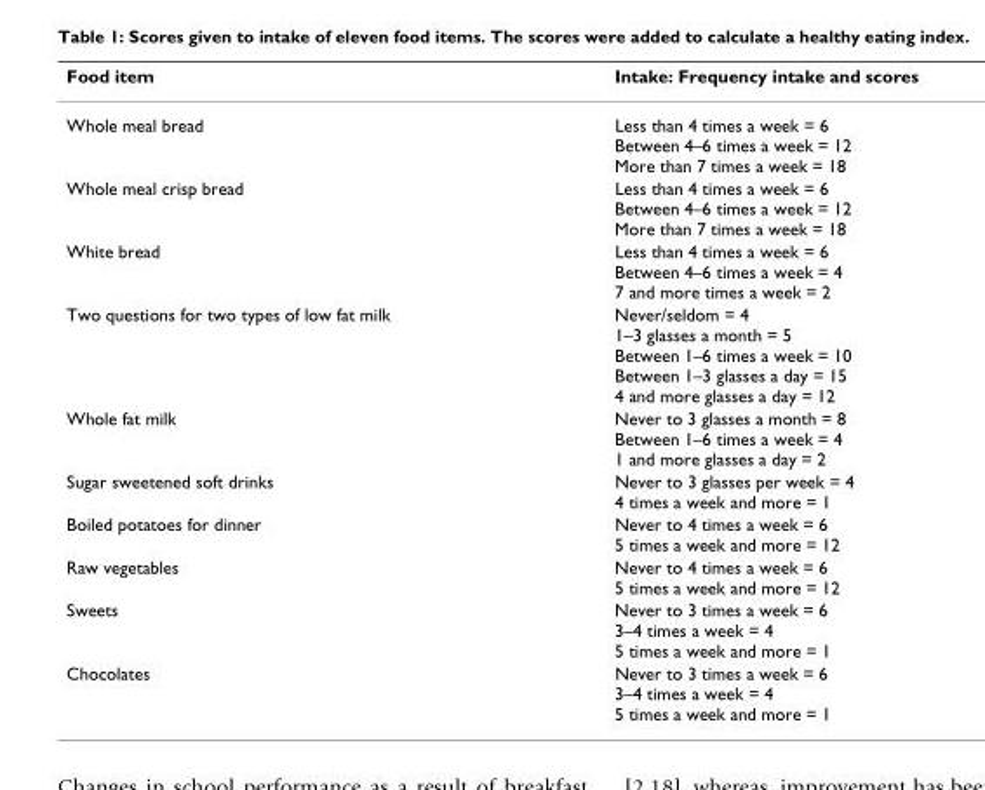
<table><thead><tr><td>Food item</td><td>Intake: Frequency intake and scores</td></tr></thead><tbody><tr><td>Whole meal bread</td><td>Less than 4 times a week = 6 Between 4–6 times a week = 12 More than 7 times a week = 18</td></tr><tr><td>Whole meal crisp bread</td><td>Less than 4 times a week = 6 Between 4–6 times a week = 12 More than 7 times a week = 18</td></tr><tr><td>White bread</td><td>Less than 4 times a week = 6 Between 4–6 times a week = 4 7 and more times a week = 2</td></tr><tr><td>Two questions for two types of low fat milk</td><td>Never/seldom = 4 1–3 glasses a month = 5 Between 1–6 times a week = 10 Between 1–3 glasses a day = 15 4 and more glasses a day = 12</td></tr><tr><td>Whole fat milk</td><td>Never to 3 glasses a month = 8 Between 1–6 times a week = 4 1 and more glasses a day = 2</td></tr><tr><td>Sugar sweetened soft drinks</td><td>Never to 3 glasses per week = 4 4 times a week and more = 1</td></tr><tr><td>Boiled potatoes for dinner</td><td>Never to 4 times a week = 6 5 times a week and more = 12</td></tr><tr><td>Raw vegetables</td><td>Never to 4 times a week = 6 5 times a week and more = 12</td></tr><tr><td>Sweets</td><td>Never to 3 times a week = 6 3–4 times a week = 4 5 times a week and more = 1</td></tr><tr><td>Chocolates</td><td>Never to 3 times a week = 6 3–4 times a week = 4 5 times a week and more = 1</td></tr></tbody></table>